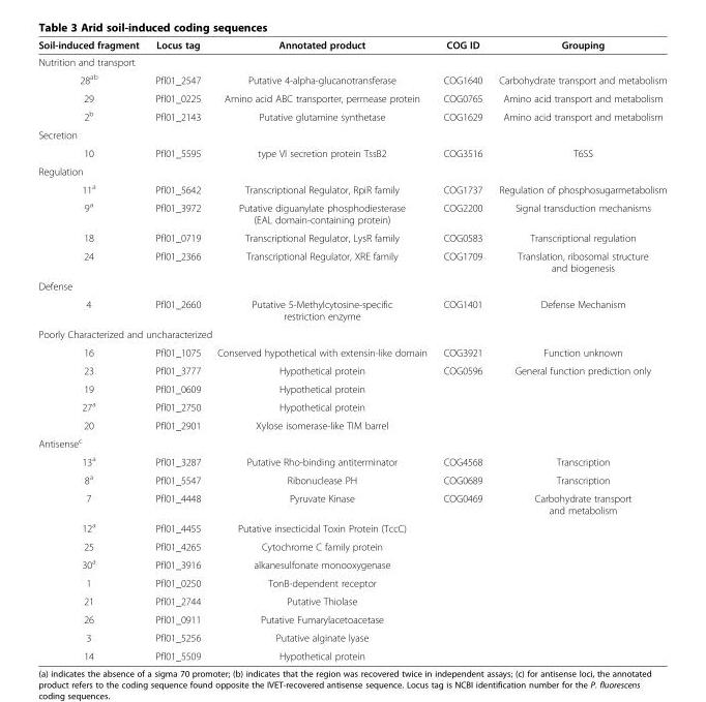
<table><thead><tr><td>Soil-induced fragment</td><td>Locus tag</td><td>Annotated product</td><td>COG ID</td><td>Grouping</td></tr></thead><tbody><tr><td colspan="5">Nutrition and transport</td></tr><tr><td>28<sup>ab</sup></td><td>Pfl01_2547</td><td>Putative 4-alpha-glucanotransferase</td><td>COG1640</td><td>Carbohydrate transport and metabolism</td></tr><tr><td>29</td><td>Pfl01_0225</td><td>Amino acid ABC transporter, permease protein</td><td>COG0765</td><td>Amino acid transport and metabolism</td></tr><tr><td>2<sup>b</sup></td><td>Pfl01_2143</td><td>Putative glutamine synthetase</td><td>COG1629</td><td>Amino acid transport and metabolism</td></tr><tr><td colspan="5">Secretion</td></tr><tr><td>10</td><td>Pfl01_5595</td><td>type VI secretion protein TssB2</td><td>COG3516</td><td>T6SS</td></tr><tr><td colspan="5">Regulation</td></tr><tr><td>11<sup>a</sup></td><td>Pfl01_5642</td><td>Transcriptional Regulator, RpiR family</td><td>COG1737</td><td>Regulation of phosphosugarmetabolism</td></tr><tr><td>9<sup>a</sup></td><td>Pfl01_3972</td><td>Putative diguanylate phosphodiesterase (EAL domain-containing protein)</td><td>COG2200</td><td>Signal transduction mechanisms</td></tr><tr><td>18</td><td>Pfl01_0719</td><td>Transcriptional Regulator, LysR family</td><td>COG0583</td><td>Transcriptional regulation</td></tr><tr><td>24</td><td>Pfl01_2366</td><td>Transcriptional Regulator, XRE family</td><td>COG1709</td><td>Translation, ribosomal structure and biogenesis</td></tr><tr><td colspan="5">Defense</td></tr><tr><td>4</td><td>Pfl01_2660</td><td>Putative 5-Methylcytosine-specific restriction enzyme</td><td>COG1401</td><td>Defense Mechanism</td></tr><tr><td colspan="5">Poorly Characterized and uncharacterized</td></tr><tr><td>16</td><td>Pfl01_1075</td><td>Conserved hypothetical with extensin-like domain</td><td>COG3921</td><td>Function unknown</td></tr><tr><td>23</td><td>Pfl01_3777</td><td>Hypothetical protein</td><td>COG0596</td><td>General function prediction only</td></tr><tr><td>19</td><td>Pfl01_0609</td><td>Hypothetical protein</td><td></td><td></td></tr><tr><td>27<sup>a</sup></td><td>Pfl01_2750</td><td>Hypothetical protein</td><td></td><td></td></tr><tr><td>20</td><td>Pfl01_2901</td><td>Xylose isomerase-like TIM barrel</td><td></td><td></td></tr><tr><td colspan="5">Antisense<sup>c</sup></td></tr><tr><td>13<sup>a</sup></td><td>Pfl01_3287</td><td>Putative Rho-binding antiterminator</td><td>COG4568</td><td>Transcription</td></tr><tr><td>8<sup>a</sup></td><td>Pfl01_5547</td><td>Ribonuclease PH</td><td>COG0689</td><td>Transcription</td></tr><tr><td>7</td><td>Pfl01_4448</td><td>Pyruvate Kinase</td><td>COG0469</td><td>Carbohydrate transport and metabolism</td></tr><tr><td>12<sup>a</sup></td><td>Pfl01_4455</td><td>Putative insecticidal Toxin Protein (TccC)</td><td></td><td></td></tr><tr><td>25</td><td>Pfl01_4265</td><td>Cytochrome C family protein</td><td></td><td></td></tr><tr><td>30<sup>a</sup></td><td>Pfl01_3916</td><td>alkanesulfonate monooxygenase</td><td></td><td></td></tr><tr><td>1</td><td>Pfl01_0250</td><td>TonB-dependent receptor</td><td></td><td></td></tr><tr><td>21</td><td>Pfl01_2744</td><td>Putative Thiolase</td><td></td><td></td></tr><tr><td>26</td><td>Pfl01_0911</td><td>Putative Fumarylacetoacetase</td><td></td><td></td></tr><tr><td>3</td><td>Pfl01_5256</td><td>Putative alginate lyase</td><td></td><td></td></tr><tr><td>14</td><td>Pfl01_5509</td><td>Hypothetical protein</td><td></td><td></td></tr></tbody></table>